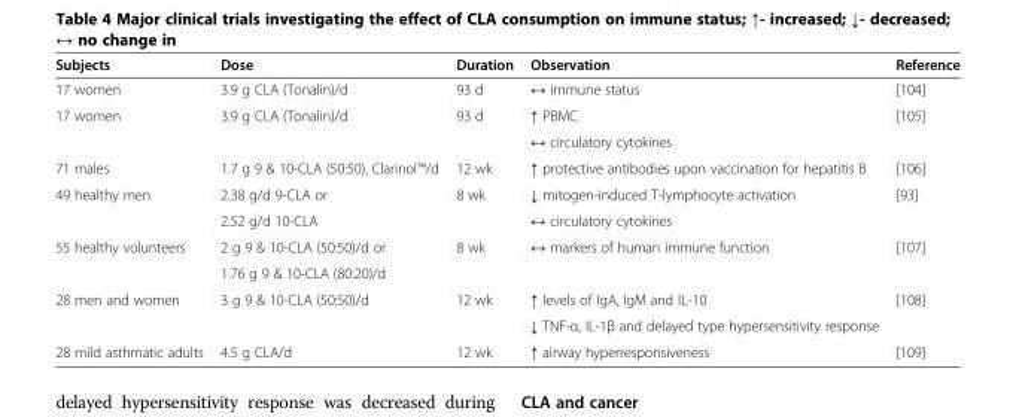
<table><thead><tr><td>Subjects</td><td>Dose</td><td>Duration</td><td>Observation</td><td>Reference</td></tr></thead><tbody><tr><td>17 women</td><td>3.9 g CLA (Tonalin)/d</td><td>93 d</td><td>↔ immune status</td><td>[104]</td></tr><tr><td rowspan="2">17 women</td><td rowspan="2">3.9 g CLA (Tonalin)/d</td><td rowspan="2">93 d</td><td>↑ PBMC</td><td rowspan="2">[105]</td></tr><tr><td>↔ circulatory cytokines</td></tr><tr><td>71 males</td><td>1.7 g 9 &amp; 10-CLA (50:50), Clarinol™/d</td><td>12 wk</td><td>↑ protective antibodies upon vaccination for hepatitis B</td><td>[106]</td></tr><tr><td rowspan="2">49 healthy men</td><td>2.38 g/d 9-CLA or</td><td rowspan="2">8 wk</td><td>↓ mitogen-induced T-lymphocyte activation</td><td rowspan="2">[93]</td></tr><tr><td>2.52 g/d 10-CLA</td><td>↔ circulatory cytokines</td></tr><tr><td rowspan="2">55 healthy volunteers</td><td>2 g 9 &amp; 10-CLA (50:50)/d or</td><td rowspan="2">8 wk</td><td rowspan="2">↔ markers of human immune function</td><td rowspan="2">[107]</td></tr><tr><td>1.76 g 9 &amp; 10-CLA (80:20)/d</td></tr><tr><td rowspan="2">28 men and women</td><td rowspan="2">3 g 9 &amp; 10-CLA (50:50)/d</td><td rowspan="2">12 wk</td><td>↑ levels of IgA, IgM and IL-10</td><td rowspan="2">[108]</td></tr><tr><td>↓ TNF-α, IL-1β and delayed type hypersensitivity response</td></tr><tr><td>28 mild asthmatic adults</td><td>4.5 g CLA/d</td><td>12 wk</td><td>↑ airway hyperresponsiveness</td><td>[109]</td></tr></tbody></table>